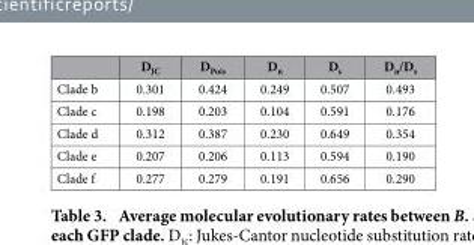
<table><thead><tr><td></td><td>D<sub>JC</sub></td><td>D<sub>Pois</sub></td><td>D<sub>n</sub></td><td>D<sub>s</sub></td><td>D<sub>n</sub>/D<sub>s</sub></td></tr></thead><tbody><tr><td>Clade b</td><td>0.301</td><td>0.424</td><td>0.249</td><td>0.507</td><td>0.493</td></tr><tr><td>Clade c</td><td>0.198</td><td>0.203</td><td>0.104</td><td>0.591</td><td>0.176</td></tr><tr><td>Clade d</td><td>0.312</td><td>0.387</td><td>0.230</td><td>0.649</td><td>0.354</td></tr><tr><td>Clade e</td><td>0.207</td><td>0.206</td><td>0.113</td><td>0.594</td><td>0.190</td></tr><tr><td>Clade f</td><td>0.277</td><td>0.279</td><td>0.191</td><td>0.656</td><td>0.290</td></tr></tbody></table>